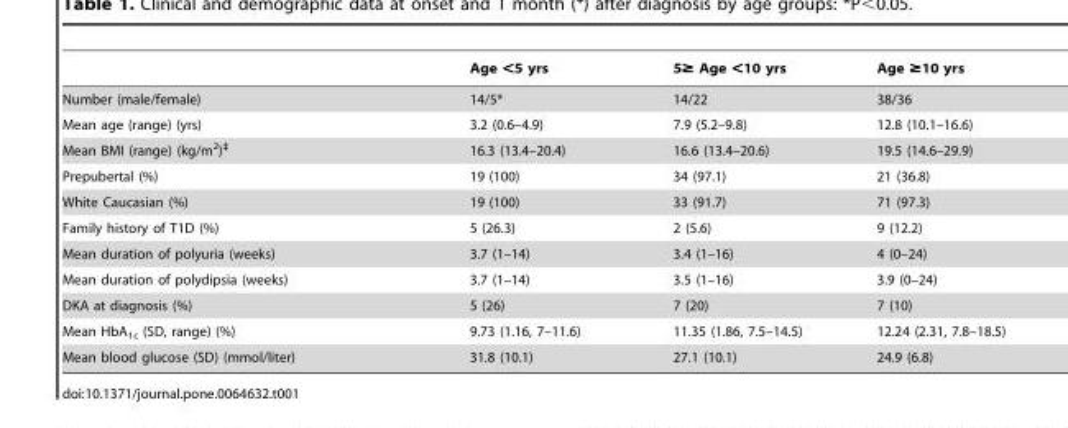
<table><thead><tr><td></td><td>Age &lt;5 yrs</td><td>5≥ Age &lt;10 yrs</td><td>Age ≥10 yrs</td></tr></thead><tbody><tr><td>Number (male/female)</td><td>14/5*</td><td>14/22</td><td>38/36</td></tr><tr><td>Mean age (range) (yrs)</td><td>3.2 (0.6–4.9)</td><td>7.9 (5.2–9.8)</td><td>12.8 (10.1–16.6)</td></tr><tr><td>Mean BMI (range) (kg/m<sup>2</sup>)<sup>‡</sup></td><td>16.3 (13.4–20.4)</td><td>16.6 (13.4–20.6)</td><td>19.5 (14.6–29.9)</td></tr><tr><td>Prepubertal (%)</td><td>19 (100)</td><td>34 (97.1)</td><td>21 (36.8)</td></tr><tr><td>White Caucasian (%)</td><td>19 (100)</td><td>33 (91.7)</td><td>71 (97.3)</td></tr><tr><td>Family history of T1D (%)</td><td>5 (26.3)</td><td>2 (5.6)</td><td>9 (12.2)</td></tr><tr><td>Mean duration of polyuria (weeks)</td><td>3.7 (1–14)</td><td>3.4 (1–16)</td><td>4 (0–24)</td></tr><tr><td>Mean duration of polydipsia (weeks)</td><td>3.7 (1–14)</td><td>3.5 (1–16)</td><td>3.9 (0–24)</td></tr><tr><td>DKA at diagnosis (%)</td><td>5 (26)</td><td>7 (20)</td><td>7 (10)</td></tr><tr><td>Mean HbA<sub>1c</sub> (SD, range) (%)</td><td>9.73 (1.16, 7–11.6)</td><td>11.35 (1.86, 7.5–14.5)</td><td>12.24 (2.31, 7.8–18.5)</td></tr><tr><td>Mean blood glucose (SD) (mmol/liter)</td><td>31.8 (10.1)</td><td>27.1 (10.1)</td><td>24.9 (6.8)</td></tr></tbody></table>